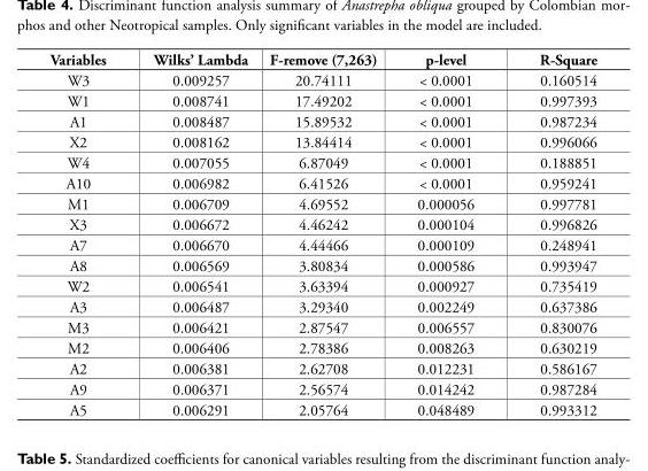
<table><thead><tr><td>Variables</td><td>Wilks’ Lambda</td><td>F-remove (7,263)</td><td>p-level</td><td>R-Square</td></tr></thead><tbody><tr><td>W3</td><td>0.009257</td><td>20.74111</td><td>&lt; 0.0001</td><td>0.160514</td></tr><tr><td>W1</td><td>0.008741</td><td>17.49202</td><td>&lt; 0.0001</td><td>0.997393</td></tr><tr><td>A1</td><td>0.008487</td><td>15.89532</td><td>&lt; 0.0001</td><td>0.987234</td></tr><tr><td>X2</td><td>0.008162</td><td>13.84414</td><td>&lt; 0.0001</td><td>0.996066</td></tr><tr><td>W4</td><td>0.007055</td><td>6.87049</td><td>&lt; 0.0001</td><td>0.188851</td></tr><tr><td>A10</td><td>0.006982</td><td>6.41526</td><td>&lt; 0.0001</td><td>0.959241</td></tr><tr><td>M1</td><td>0.006709</td><td>4.69552</td><td>0.000056</td><td>0.997781</td></tr><tr><td>X3</td><td>0.006672</td><td>4.46242</td><td>0.000104</td><td>0.996826</td></tr><tr><td>A7</td><td>0.006670</td><td>4.44466</td><td>0.000109</td><td>0.248941</td></tr><tr><td>A8</td><td>0.006569</td><td>3.80834</td><td>0.000586</td><td>0.993947</td></tr><tr><td>W2</td><td>0.006541</td><td>3.63394</td><td>0.000927</td><td>0.735419</td></tr><tr><td>A3</td><td>0.006487</td><td>3.29340</td><td>0.002249</td><td>0.637386</td></tr><tr><td>M3</td><td>0.006421</td><td>2.87547</td><td>0.006557</td><td>0.830076</td></tr><tr><td>M2</td><td>0.006406</td><td>2.78386</td><td>0.008263</td><td>0.630219</td></tr><tr><td>A2</td><td>0.006381</td><td>2.62708</td><td>0.012231</td><td>0.586167</td></tr><tr><td>A9</td><td>0.006371</td><td>2.56574</td><td>0.014242</td><td>0.987284</td></tr><tr><td>A5</td><td>0.006291</td><td>2.05764</td><td>0.048489</td><td>0.993312</td></tr></tbody></table>